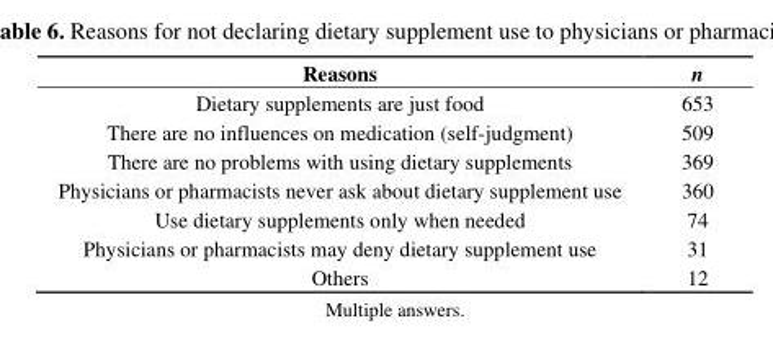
<table><thead><tr><td>Reasons</td><td>n</td></tr></thead><tbody><tr><td>Dietary supplements are just food</td><td>653</td></tr><tr><td>There are no influences on medication (self-judgment)</td><td>509</td></tr><tr><td>There are no problems with using dietary supplements</td><td>369</td></tr><tr><td>Physicians or pharmacists never ask about dietary supplement use</td><td>360</td></tr><tr><td>Use dietary supplements only when needed</td><td>74</td></tr><tr><td>Physicians or pharmacists may deny dietary supplement use</td><td>31</td></tr><tr><td>Others</td><td>12</td></tr></tbody></table>